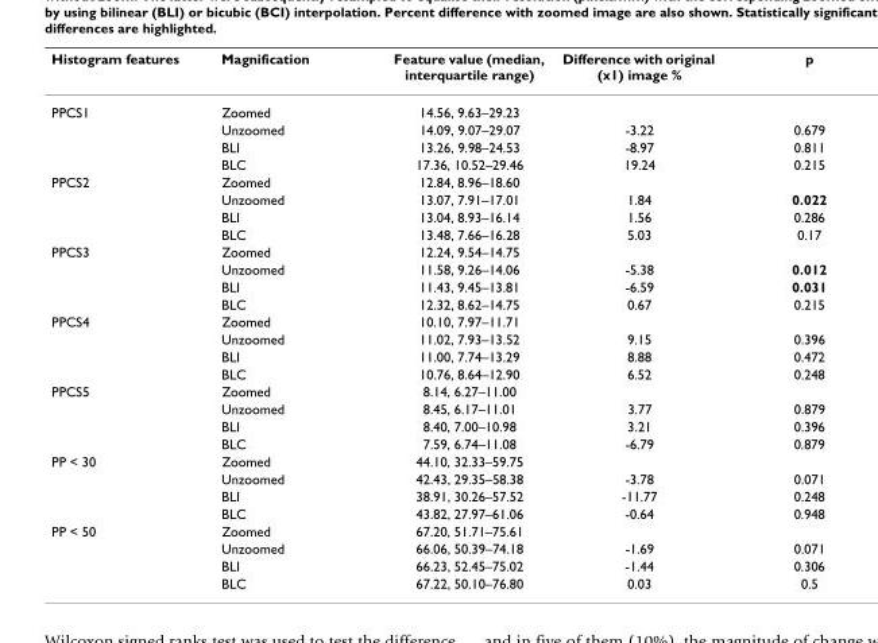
<table><thead><tr><td>Histogram features</td><td>Magnification</td><td>Feature value (median, interquartile range)</td><td>Difference with original (x1) image %</td><td>p</td></tr></thead><tbody><tr><td rowspan="4">PPCS1</td><td>Zoomed</td><td>14.56, 9.63–29.23</td><td></td><td></td></tr><tr><td>Unzoomed</td><td>14.09, 9.07–29.07</td><td>-3.22</td><td>0.679</td></tr><tr><td>BLI</td><td>13.26, 9.98–24.53</td><td>-8.97</td><td>0.811</td></tr><tr><td>BLC</td><td>17.36, 10.52–29.46</td><td>19.24</td><td>0.215</td></tr><tr><td rowspan="4">PPCS2</td><td>Zoomed</td><td>12.84, 8.96–18.60</td><td></td><td></td></tr><tr><td>Unzoomed</td><td>13.07, 7.91–17.01</td><td>1.84</td><td>0.022</td></tr><tr><td>BLI</td><td>13.04, 8.93–16.14</td><td>1.56</td><td>0.286</td></tr><tr><td>BLC</td><td>13.48, 7.66–16.28</td><td>5.03</td><td>0.17</td></tr><tr><td rowspan="4">PPCS3</td><td>Zoomed</td><td>12.24, 9.54–14.75</td><td></td><td></td></tr><tr><td>Unzoomed</td><td>11.58, 9.26–14.06</td><td>-5.38</td><td>0.012</td></tr><tr><td>BLI</td><td>11.43, 9.45–13.81</td><td>-6.59</td><td>0.031</td></tr><tr><td>BLC</td><td>12.32, 8.62–14.75</td><td>0.67</td><td>0.215</td></tr><tr><td rowspan="4">PPCS4</td><td>Zoomed</td><td>10.10, 7.97–11.71</td><td></td><td></td></tr><tr><td>Unzoomed</td><td>11.02, 7.93–13.52</td><td>9.15</td><td>0.396</td></tr><tr><td>BLI</td><td>11.00, 7.74–13.29</td><td>8.88</td><td>0.472</td></tr><tr><td>BLC</td><td>10.76, 8.64–12.90</td><td>6.52</td><td>0.248</td></tr><tr><td rowspan="4">PPCS5</td><td>Zoomed</td><td>8.14, 6.27–11.00</td><td></td><td></td></tr><tr><td>Unzoomed</td><td>8.45, 6.17–11.01</td><td>3.77</td><td>0.879</td></tr><tr><td>BLI</td><td>8.40, 7.00–10.98</td><td>3.21</td><td>0.396</td></tr><tr><td>BLC</td><td>7.59, 6.74–11.08</td><td>-6.79</td><td>0.879</td></tr><tr><td rowspan="4">PP &lt; 30</td><td>Zoomed</td><td>44.10, 32.33–59.75</td><td></td><td></td></tr><tr><td>Unzoomed</td><td>42.43, 29.35–58.38</td><td>-3.78</td><td>0.071</td></tr><tr><td>BLI</td><td>38.91, 30.26–57.52</td><td>-11.77</td><td>0.248</td></tr><tr><td>BLC</td><td>43.82, 27.97–61.06</td><td>-0.64</td><td>0.948</td></tr><tr><td rowspan="4">PP &lt; 50</td><td>Zoomed</td><td>67.20, 51.71–75.61</td><td></td><td></td></tr><tr><td>Unzoomed</td><td>66.06, 50.39–74.18</td><td>-1.69</td><td>0.071</td></tr><tr><td>BLI</td><td>66.23, 52.45–75.02</td><td>-1.44</td><td>0.306</td></tr><tr><td>BLC</td><td>67.22, 50.10–76.80</td><td>0.03</td><td>0.5</td></tr></tbody></table>